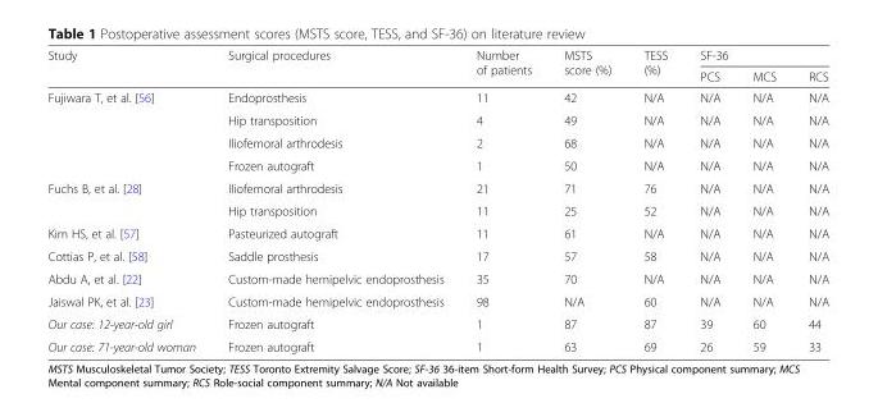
<table><thead><tr><td rowspan="2">Study</td><td rowspan="2">Surgical procedures</td><td rowspan="2">Number of patients</td><td rowspan="2">MSTS score (%)</td><td rowspan="2">TESS (%)</td><td colspan="3">SF-36</td></tr><tr><td>PCS</td><td>MCS</td><td>RCS</td></tr></thead><tbody><tr><td rowspan="4">Fujiwara T, et al. [56]</td><td>Endoprosthesis</td><td>11</td><td>42</td><td>N/A</td><td>N/A</td><td>N/A</td><td>N/A</td></tr><tr><td>Hip transposition</td><td>4</td><td>49</td><td>N/A</td><td>N/A</td><td>N/A</td><td>N/A</td></tr><tr><td>Iliofemoral arthrodesis</td><td>2</td><td>68</td><td>N/A</td><td>N/A</td><td>N/A</td><td>N/A</td></tr><tr><td>Frozen autograft</td><td>1</td><td>50</td><td>N/A</td><td>N/A</td><td>N/A</td><td>N/A</td></tr><tr><td rowspan="2">Fuchs B, et al. [28]</td><td>Iliofemoral arthrodesis</td><td>21</td><td>71</td><td>76</td><td>N/A</td><td>N/A</td><td>N/A</td></tr><tr><td>Hip transposition</td><td>11</td><td>25</td><td>52</td><td>N/A</td><td>N/A</td><td>N/A</td></tr><tr><td>Kim HS, et al. [57]</td><td>Pasteurized autograft</td><td>11</td><td>61</td><td>N/A</td><td>N/A</td><td>N/A</td><td>N/A</td></tr><tr><td>Cottias P, et al. [58]</td><td>Saddle prosthesis</td><td>17</td><td>57</td><td>58</td><td>N/A</td><td>N/A</td><td>N/A</td></tr><tr><td>Abdu A, et al. [22]</td><td>Custom-made hemipelvic endoprosthesis</td><td>35</td><td>70</td><td>N/A</td><td>N/A</td><td>N/A</td><td>N/A</td></tr><tr><td>Jaiswal PK, et al. [23]</td><td>Custom-made hemipelvic endoprosthesis</td><td>98</td><td>N/A</td><td>60</td><td>N/A</td><td>N/A</td><td>N/A</td></tr><tr><td>Our case: 12-year-old girl</td><td>Frozen autograft</td><td>1</td><td>87</td><td>87</td><td>39</td><td>60</td><td>44</td></tr><tr><td>Our case: 71-year-old woman</td><td>Frozen autograft</td><td>1</td><td>63</td><td>69</td><td>26</td><td>59</td><td>33</td></tr></tbody></table>